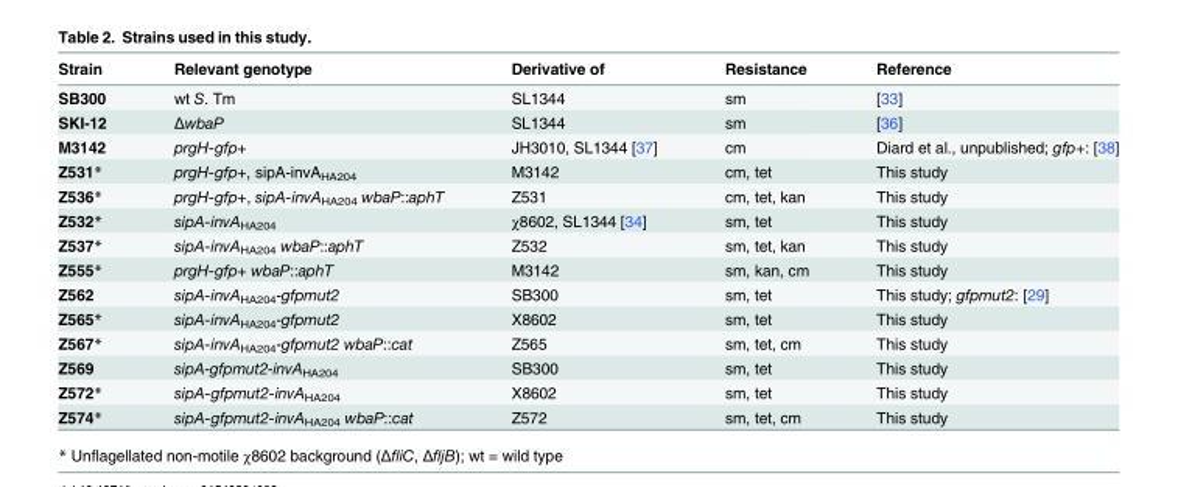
<table><thead><tr><td>Strain</td><td>Relevant genotype</td><td>Derivative of</td><td>Resistance</td><td>Reference</td></tr></thead><tbody><tr><td>SB300</td><td>wt S. Tm</td><td>SL1344</td><td>sm</td><td>[33]</td></tr><tr><td>SKI-12</td><td>ΔwbaP</td><td>SL1344</td><td>sm</td><td>[36]</td></tr><tr><td>M3142</td><td>prgH-gfp+</td><td>JH3010, SL1344 [37]</td><td>cm</td><td>Diard et al., unpublished; gfp+: [38]</td></tr><tr><td>Z531*</td><td>prgH-gfp+, sipA-invA<sub>HA204</sub></td><td>M3142</td><td>cm, tet</td><td>This study</td></tr><tr><td>Z536*</td><td>prgH-gfp+, sipA-invA<sub>HA204</sub> wbaP::aphT</td><td>Z531</td><td>cm, tet, kan</td><td>This study</td></tr><tr><td>Z532*</td><td>sipA-invA<sub>HA204</sub></td><td>χ8602, SL1344 [34]</td><td>sm, tet</td><td>This study</td></tr><tr><td>Z537*</td><td>sipA-invA<sub>HA204</sub> wbaP::aphT</td><td>Z532</td><td>sm, tet, kan</td><td>This study</td></tr><tr><td>Z555*</td><td>prgH-gfp+ wbaP::aphT</td><td>M3142</td><td>sm, kan, cm</td><td>This study</td></tr><tr><td>Z562</td><td>sipA-invA<sub>HA204</sub>-gfpmut2</td><td>SB300</td><td>sm, tet</td><td>This study; gfpmut2: [29]</td></tr><tr><td>Z565*</td><td>sipA-invA<sub>HA204</sub>-gfpmut2</td><td>X8602</td><td>sm, tet</td><td>This study</td></tr><tr><td>Z567*</td><td>sipA-invA<sub>HA204</sub>-gfpmut2 wbaP::cat</td><td>Z565</td><td>sm, tet, cm</td><td>This study</td></tr><tr><td>Z569</td><td>sipA-gfpmut2-invA<sub>HA204</sub></td><td>SB300</td><td>sm, tet</td><td>This study</td></tr><tr><td>Z572*</td><td>sipA-gfpmut2-invA<sub>HA204</sub></td><td>X8602</td><td>sm, tet</td><td>This study</td></tr><tr><td>Z574*</td><td>sipA-gfpmut2-invA<sub>HA204</sub> wbaP::cat</td><td>Z572</td><td>sm, tet, cm</td><td>This study</td></tr></tbody></table>